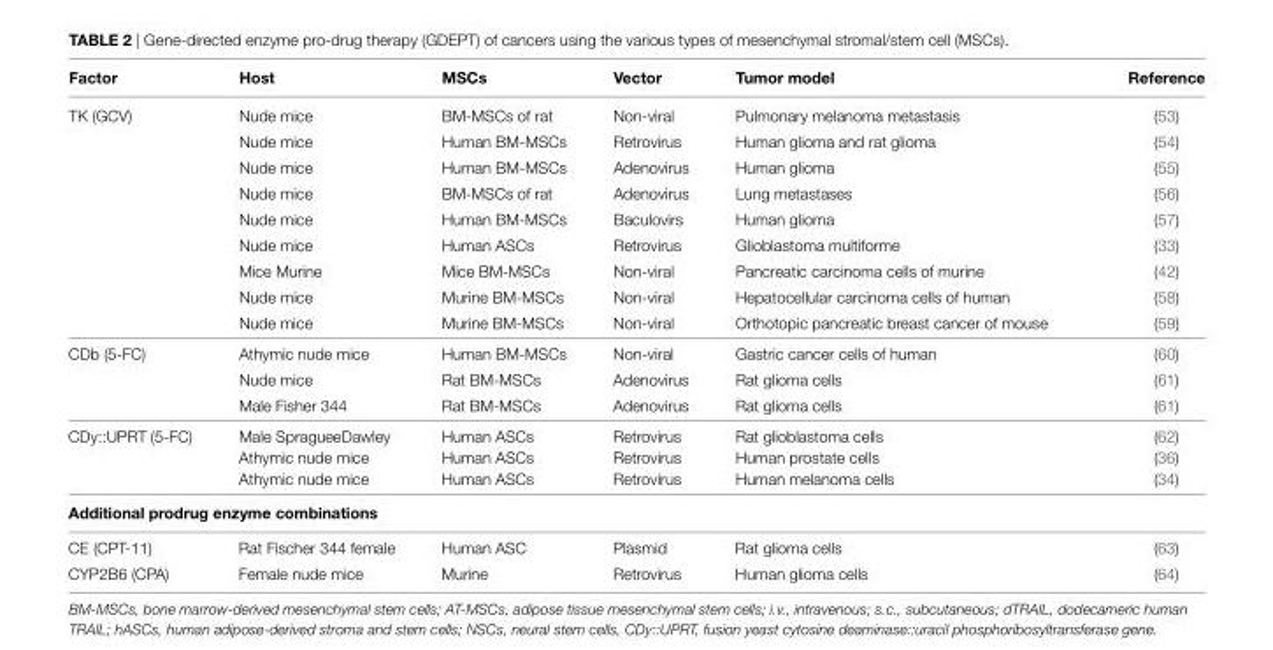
<table><thead><tr><td>Factor</td><td>Host</td><td>MSCs</td><td>vector</td><td>Tumor model</td><td>Reference</td></tr></thead><tbody><tr><td rowspan="9">TK (GCV)</td><td>Nude mice</td><td>BM-MSCs of rat</td><td>Non-viral</td><td>Pulmonary melanoma metastasis</td><td>(53)</td></tr><tr><td>Nude mice</td><td>Human BM-MSCs</td><td>Retrovirus</td><td>Human glioma and rat glioma</td><td>(54)</td></tr><tr><td>Nude mice</td><td>Human BM-MSCs</td><td>Adenovirus</td><td>Human glioma</td><td>(55)</td></tr><tr><td>Nude mice</td><td>BM-MSCs of rat</td><td>Adenovirus</td><td>Lung metastases</td><td>(56)</td></tr><tr><td>Nude mice</td><td>Human BM-MSCs</td><td>Baculovirs</td><td>Human glioma</td><td>(57)</td></tr><tr><td>Nude mice</td><td>Human ASCs</td><td>Retrovirus</td><td>Glioblastoma multiforme</td><td>(33)</td></tr><tr><td>Mice Murine</td><td>Mice BM-MSCs</td><td>Non-viral</td><td>Pancreatic carcinoma cells of murine</td><td>(42)</td></tr><tr><td>Nude mice</td><td>Murine BM-MSCs</td><td>Non-viral</td><td>Hepatocellular carcinoma cells of human</td><td>(58)</td></tr><tr><td>Nude mice</td><td>Murine BM-MSCs</td><td>Non-viral</td><td>Orthotopic pancreatic breast cancer of mouse</td><td>(59)</td></tr><tr><td rowspan="3">CDb (5-FC)</td><td>Athymic nude mice</td><td>Human BM-MSCs</td><td>Non-viral</td><td>Gastric cancer cells of human</td><td>(60)</td></tr><tr><td>Nude mice</td><td>Rat BM-MSCs</td><td>Adenovirus</td><td>Rat glioma cells</td><td>(61)</td></tr><tr><td>Male Fisher 344</td><td>Rat BM-MSCs</td><td>Adenovirus</td><td>Rat glioma cells</td><td>(61)</td></tr><tr><td rowspan="3">CDy::UPRT (5-FC)</td><td>Male SpragueeDawley</td><td>Human ASCs</td><td>Retrovirus</td><td>Rat glioblastoma cells</td><td>(62)</td></tr><tr><td>Athymic nude mice</td><td>Human ASCs</td><td>Retrovirus</td><td>Human prostate cells</td><td>(36)</td></tr><tr><td>Athymic nude mice</td><td>Human ASCs</td><td>Retrovirus</td><td>Human melanoma cells</td><td>(34)</td></tr><tr><td colspan="6">Additional prodrug enzyme combinations</td></tr><tr><td>CE (CPT-11)</td><td>Rat Fischer 344 female</td><td>Human ASC</td><td>Plasmid</td><td>Rat glioma cells</td><td>(63)</td></tr><tr><td>CYP2B6 (CPA)</td><td>Female nude mice</td><td>Murine</td><td>Retrovirus</td><td>Human glioma cells</td><td>(64)</td></tr></tbody></table>